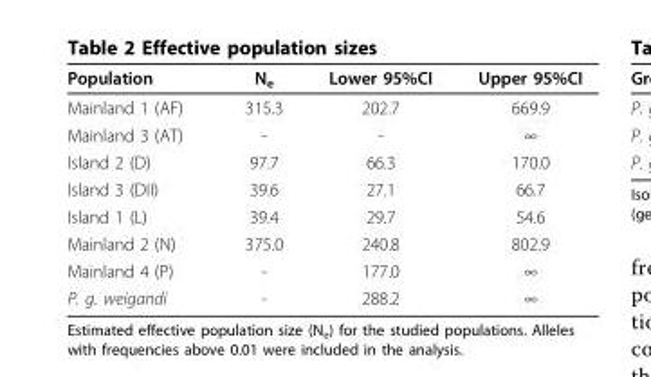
<table><thead><tr><td>Population</td><td>N<sub>e</sub></td><td>Lower 95%CI</td><td>Upper 95%CI</td></tr></thead><tbody><tr><td>Mainland 1 (AF)</td><td>315.3</td><td>202.7</td><td>669.9</td></tr><tr><td>Mainland 3 (AT)</td><td>-</td><td>-</td><td>∞</td></tr><tr><td>Island 2 (D)</td><td>97.7</td><td>66.3</td><td>170.0</td></tr><tr><td>Island 3 (DII)</td><td>39.6</td><td>27.1</td><td>66.7</td></tr><tr><td>Island 1 (L)</td><td>39.4</td><td>29.7</td><td>54.6</td></tr><tr><td>Mainland 2 (N)</td><td>375.0</td><td>240.8</td><td>802.9</td></tr><tr><td>Mainland 4 (P)</td><td>-</td><td>177.0</td><td>∞</td></tr><tr><td>P. g. weigandi</td><td>-</td><td>288.2</td><td>∞</td></tr></tbody></table>